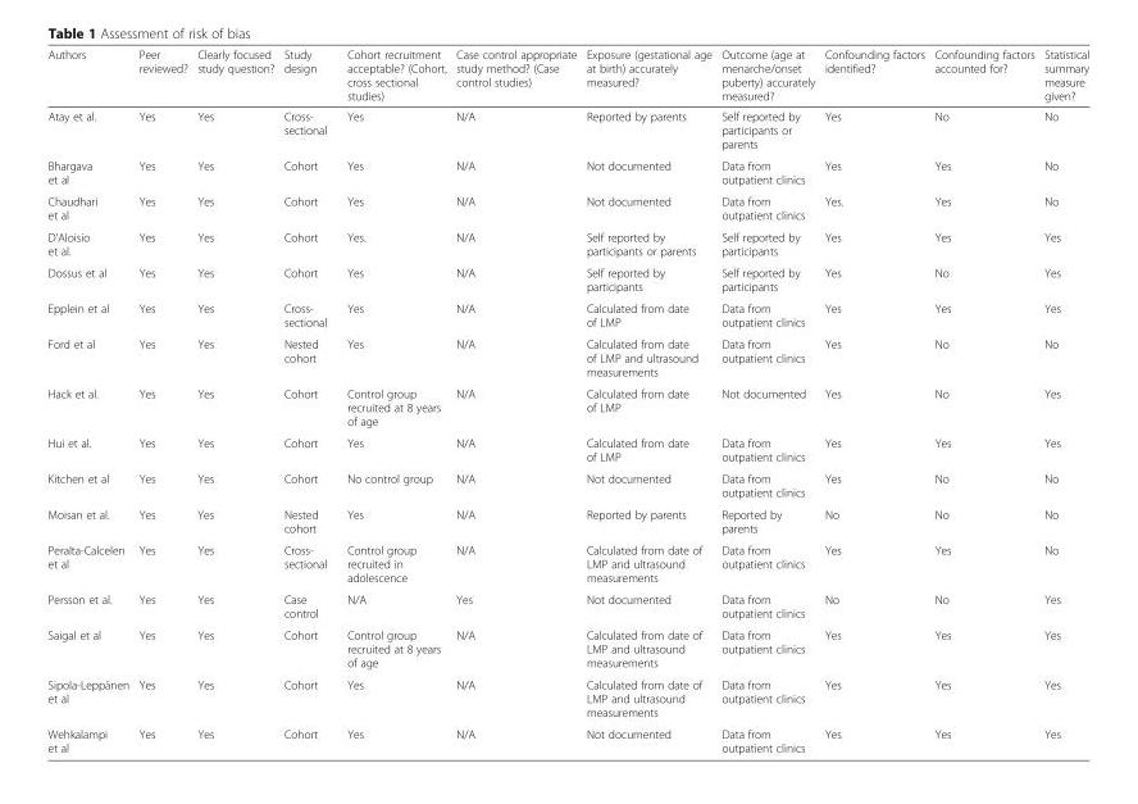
<table><thead><tr><td>Authors</td><td>Peer reviewed?</td><td>Clearly focused study question?</td><td>Study design</td><td>Cohort recruitment acceptable? (Cohort, cross sectional studies)</td><td>Case control appropriate study method? (Case control studies)</td><td>Exposure (gestational age at birth) accurately measured?</td><td>Outcome (age at menarche/onset puberty) accurately measured?</td><td>Confounding factors identified?</td><td>Confounding factors accounted for?</td><td>Statistical summary measure given?</td></tr></thead><tbody><tr><td>Atay et al.</td><td>Yes</td><td>Yes</td><td>Cross- sectional</td><td>Yes</td><td>N/A</td><td>Reported by parents</td><td>Self reported by participants or parents</td><td>Yes</td><td>No</td><td>No</td></tr><tr><td>Bhargava et al</td><td>Yes</td><td>Yes</td><td>Cohort</td><td>Yes</td><td>N/A</td><td>Not documented</td><td>Data from outpatient clinics</td><td>Yes</td><td>Yes</td><td>No</td></tr><tr><td>Chaudhari et al</td><td>Yes</td><td>Yes</td><td>Cohort</td><td>Yes</td><td>N/A</td><td>Not documented</td><td>Data from outpatient clinics</td><td>Yes.</td><td>Yes</td><td>No</td></tr><tr><td>D’Aloisio et al.</td><td>Yes</td><td>Yes</td><td>Cohort</td><td>Yes.</td><td>N/A</td><td>Self reported by participants or parents</td><td>Self reported by participants</td><td>Yes</td><td>Yes</td><td>Yes</td></tr><tr><td>Dossus et al</td><td>Yes</td><td>Yes</td><td>Cohort</td><td>Yes</td><td>N/A</td><td>Self reported by participants</td><td>Self reported by participants</td><td>Yes</td><td>No</td><td>Yes</td></tr><tr><td>Epplein et al</td><td>Yes</td><td>Yes</td><td>Cross- sectional</td><td>Yes</td><td>N/A</td><td>Calculated from date of LMP</td><td>Data from outpatient clinics</td><td>Yes</td><td>Yes</td><td>Yes</td></tr><tr><td>Ford et al</td><td>Yes</td><td>Yes</td><td>Nested cohort</td><td>Yes</td><td>N/A</td><td>Calculated from date of LMP and ultrasound measurements</td><td>Data from outpatient clinics</td><td>Yes</td><td>No</td><td>No</td></tr><tr><td>Hack et al.</td><td>Yes</td><td>Yes</td><td>Cohort</td><td>Control group recruited at 8 years of age</td><td>N/A</td><td>Calculated from date of LMP</td><td>Not documented</td><td>Yes</td><td>No</td><td>Yes</td></tr><tr><td>Hui et al.</td><td>Yes</td><td>Yes</td><td>Cohort</td><td>Yes</td><td>N/A</td><td>Calculated from date of LMP</td><td>Data from outpatient clinics</td><td>Yes</td><td>Yes</td><td>Yes</td></tr><tr><td>Kitchen et al</td><td>Yes</td><td>Yes</td><td>Cohort</td><td>No control group</td><td>N/A</td><td>Not documented</td><td>Data from outpatient clinics</td><td>Yes</td><td>No</td><td>No</td></tr><tr><td>Moisan et al.</td><td>Yes</td><td>Yes</td><td>Nested cohort</td><td>Yes</td><td>N/A</td><td>Reported by parents</td><td>Reported by parents</td><td>No</td><td>No</td><td>No</td></tr><tr><td>Peralta-Calcelen et al</td><td>Yes</td><td>Yes</td><td>Cross- sectional</td><td>Control group recruited in adolescence</td><td>N/A</td><td>Calculated from date of LMP and ultrasound measurements</td><td>Data from outpatient clinics</td><td>Yes</td><td>Yes</td><td>No</td></tr><tr><td>Persson et al.</td><td>Yes</td><td>Yes</td><td>Case control</td><td>N/A</td><td>Yes</td><td>Not documented</td><td>Data from outpatient clinics</td><td>No</td><td>No</td><td>Yes</td></tr><tr><td>Saigal et al</td><td>Yes</td><td>Yes</td><td>Cohort</td><td>Control group recruited at 8 years of age</td><td>N/A</td><td>Calculated from date of LMP and ultrasound measurements</td><td>Data from outpatient clinics</td><td>Yes</td><td>Yes</td><td>Yes</td></tr><tr><td>Sipola-Leppänen et al</td><td>Yes</td><td>Yes</td><td>Cohort</td><td>Yes</td><td>N/A</td><td>Calculated from date of LMP and ultrasound measurements</td><td>Data from outpatient clinics</td><td>Yes</td><td>Yes</td><td>Yes</td></tr><tr><td>Wehkalampi et al</td><td>Yes</td><td>Yes</td><td>Cohort</td><td>Yes</td><td>N/A</td><td>Not documented</td><td>Data from outpatient clinics</td><td>Yes</td><td>Yes</td><td>Yes</td></tr></tbody></table>